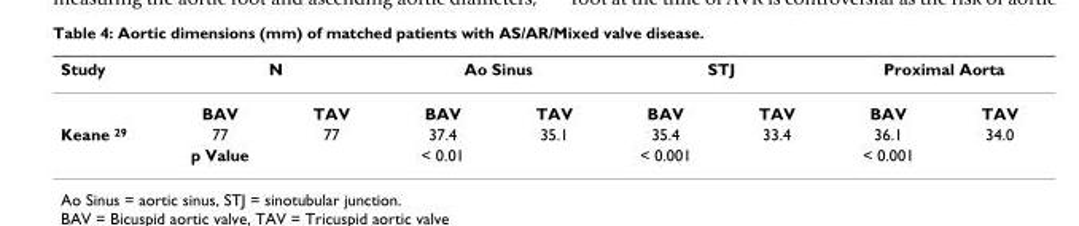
<table><thead><tr><td rowspan="2">Study</td><td colspan="2">N</td><td colspan="2">Ao Sinus</td><td colspan="2">STJ</td><td colspan="2">Proximal Aorta</td></tr><tr><td>BAV</td><td>TAV</td><td>BAV</td><td>TAV</td><td>BAV</td><td>TAV</td><td>BAV</td><td>TAV</td></tr></thead><tbody><tr><td rowspan="2">Keane <sup>29</sup></td><td>77</td><td>77</td><td>37.4</td><td>35.1</td><td>35.4</td><td>33.4</td><td>36.1</td><td>34.0</td></tr><tr><td>p Value</td><td></td><td>&lt; 0.01</td><td></td><td>&lt; 0.001</td><td></td><td>&lt; 0.001</td><td></td></tr></tbody></table>